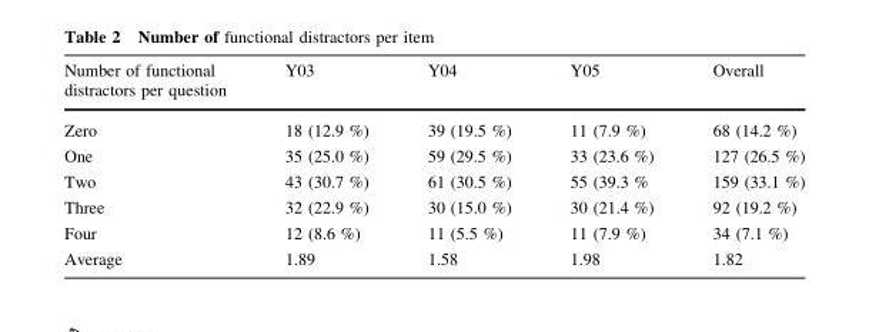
<table><thead><tr><td>Number of functional distractors per question</td><td>Y03</td><td>Y04</td><td>Y05</td><td>Overall</td></tr></thead><tbody><tr><td>Zero</td><td>18 (12.9 %)</td><td>39 (19.5 %)</td><td>11 (7.9 %)</td><td>68 (14.2 %)</td></tr><tr><td>One</td><td>35 (25.0 %)</td><td>59 (29.5 %)</td><td>33 (23.6 %)</td><td>127 (26.5 %)</td></tr><tr><td>Two</td><td>43 (30.7 %)</td><td>61 (30.5 %)</td><td>55 (39.3 %</td><td>159 (33.1 %)</td></tr><tr><td>Three</td><td>32 (22.9 %)</td><td>30 (15.0 %)</td><td>30 (21.4 %)</td><td>92 (19.2 %)</td></tr><tr><td>Four</td><td>12 (8.6 %)</td><td>11 (5.5 %)</td><td>11 (7.9 %)</td><td>34 (7.1 %)</td></tr><tr><td>Average</td><td>1.89</td><td>1.58</td><td>1.98</td><td>1.82</td></tr></tbody></table>